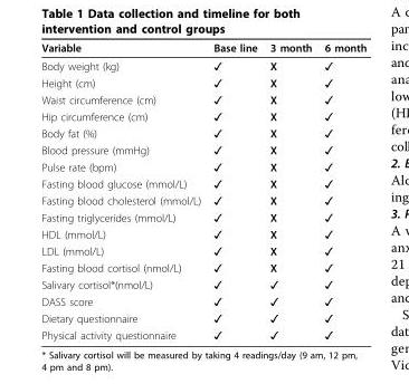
<table><thead><tr><td>Variable</td><td>Base line</td><td>3 month</td><td>6 month</td></tr></thead><tbody><tr><td>Body weight (kg)</td><td>✓</td><td>X</td><td>✓</td></tr><tr><td>Height (cm)</td><td>✓</td><td>X</td><td>✓</td></tr><tr><td>Waist circumference (cm)</td><td>✓</td><td>X</td><td>✓</td></tr><tr><td>Hip circumference (cm)</td><td>✓</td><td>X</td><td>✓</td></tr><tr><td>Body fat (%)</td><td>✓</td><td>X</td><td>✓</td></tr><tr><td>Blood pressure (mmHg)</td><td>✓</td><td>X</td><td>✓</td></tr><tr><td>Pulse rate (bpm)</td><td>✓</td><td>X</td><td>✓</td></tr><tr><td>Fasting blood glucose (mmol/L)</td><td>✓</td><td>X</td><td>✓</td></tr><tr><td>Fasting blood cholesterol (mmol/L)</td><td>✓</td><td>X</td><td>✓</td></tr><tr><td>Fasting triglycerides (mmol/L)</td><td>✓</td><td>X</td><td>✓</td></tr><tr><td>HDL (mmol/L)</td><td>✓</td><td>X</td><td>✓</td></tr><tr><td>LDL (mmol/L)</td><td>✓</td><td>X</td><td>✓</td></tr><tr><td>Fasting blood cortisol (nmol/L)</td><td>✓</td><td>X</td><td>✓</td></tr><tr><td>Salivary cortisol*(nmol/L)</td><td>✓</td><td>✓</td><td>✓</td></tr><tr><td>DASS score</td><td>✓</td><td>✓</td><td>✓</td></tr><tr><td>Dietary questionnaire</td><td>✓</td><td>✓</td><td>✓</td></tr><tr><td>Physical activity questionnaire</td><td>✓</td><td>✓</td><td>✓</td></tr></tbody></table>